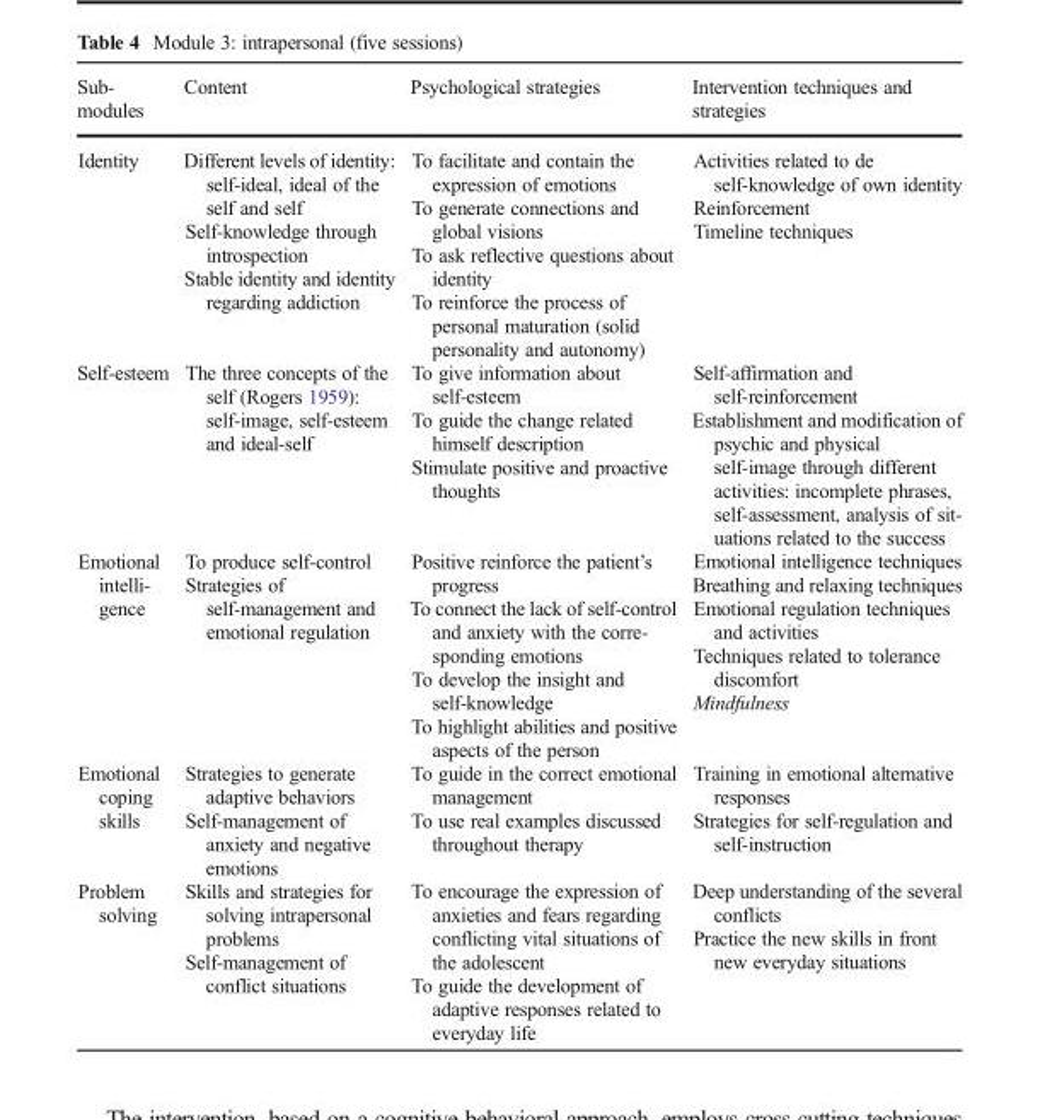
<table><thead><tr><td>Sub- modules</td><td>Content</td><td>Psychological strategies</td><td>Intervention techniques and strategies</td></tr></thead><tbody><tr><td>Identity</td><td>Different levels of identity: self-ideal, ideal of the self and self Self-knowledge through introspection Stable identity and identity regarding addiction</td><td>To facilitate and contain the expression of emotions To generate connections and global visions To ask reflective questions about identity To reinforce the process of personal maturation (solid personality and autonomy)</td><td>Activities related to de self-knowledge of own identity Reinforcement Timeline techniques</td></tr><tr><td>Self-esteem</td><td>The three concepts of the self (Rogers 1959): self-image, self-esteem and ideal-self</td><td>To give information about self-esteem To guide the change related himself description Stimulate positive and proactive thoughts</td><td>Self-affirmation and self-reinforcement Establishment and modification of psychic and physical self-image through different activities: incomplete phrases, self-assessment, analysis of sit- uations related to the success</td></tr><tr><td>Emotional intelli- gence</td><td>To produce self-control Strategies of self-management and emotional regulation</td><td>Positive reinforce the patient’s progress To connect the lack of self-control and anxiety with the corre- sponding emotions To develop the insight and self-knowledge To highlight abilities and positive aspects of the person</td><td>Emotional intelligence techniques Breathing and relaxing techniques Emotional regulation techniques and activities Techniques related to tolerance discomfort Mindfulness</td></tr><tr><td>Emotional coping skills</td><td>Strategies to generate adaptive behaviors Self-management of anxiety and negative emotions</td><td>To guide in the correct emotional management To use real examples discussed throughout therapy</td><td>Training in emotional alternative responses Strategies for self-regulation and self-instruction</td></tr><tr><td>Problem solving</td><td>Skills and strategies for solving intrapersonal problems Self-management of conflict situations</td><td>To encourage the expression of anxieties and fears regarding conflicting vital situations of the adolescent To guide the development of adaptive responses related to everyday life</td><td>Deep understanding of the several conflicts Practice the new skills in front new everyday situations</td></tr></tbody></table>